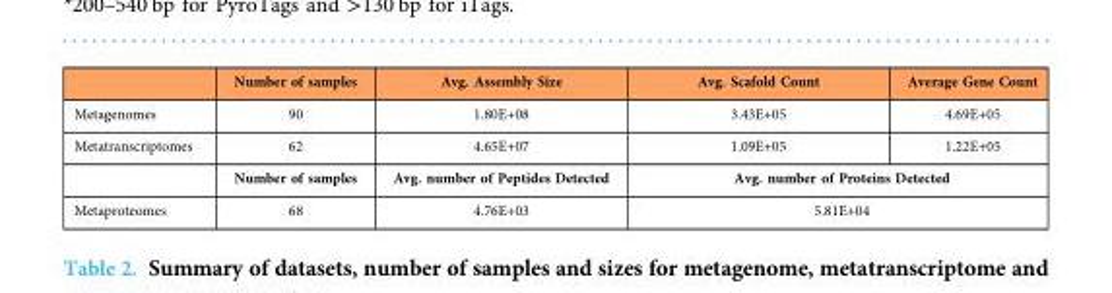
<table><thead><tr><td></td><td>Number of samples</td><td>Avg. Assembly Size</td><td>Avg. Scafold Count</td><td>Average Gene Count</td></tr></thead><tbody><tr><td>Metagenomes</td><td>90</td><td>1.80E+08</td><td>3.43E+05</td><td>4.69E+05</td></tr><tr><td rowspan="2">Metatranscriptomes</td><td>62</td><td>4.65E+07</td><td>1.09E+05</td><td>1.22E+05</td></tr><tr><td>Number of samples</td><td>Avg. number of Peptides Detected</td><td colspan="2">Avg. number of Proteins Detected</td></tr><tr><td>Metaproteomes</td><td>68</td><td>4.76E+03</td><td colspan="2">5.81E+04</td></tr></tbody></table>